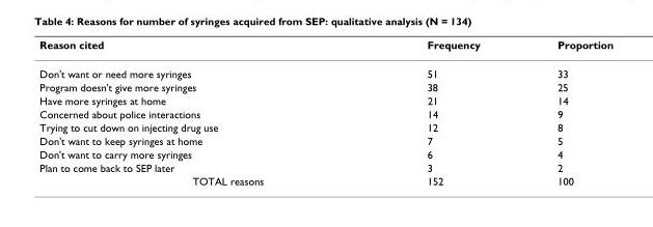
<table><thead><tr><td>Reason cited</td><td>Frequency</td><td>Proportion</td></tr></thead><tbody><tr><td>Don&#x27;t want or need more syringes</td><td>51</td><td>33</td></tr><tr><td>Program doesn&#x27;t give more syringes</td><td>38</td><td>25</td></tr><tr><td>Have more syringes at home</td><td>21</td><td>14</td></tr><tr><td>Concerned about police interactions</td><td>14</td><td>9</td></tr><tr><td>Trying to cut down on injecting drug use</td><td>12</td><td>8</td></tr><tr><td>Don&#x27;t want to keep syringes at home</td><td>7</td><td>5</td></tr><tr><td>Don&#x27;t want to carry more syringes</td><td>6</td><td>4</td></tr><tr><td>Plan to come back to SEP later</td><td>3</td><td>2</td></tr><tr><td>TOTAL reasons</td><td>152</td><td>100</td></tr></tbody></table>